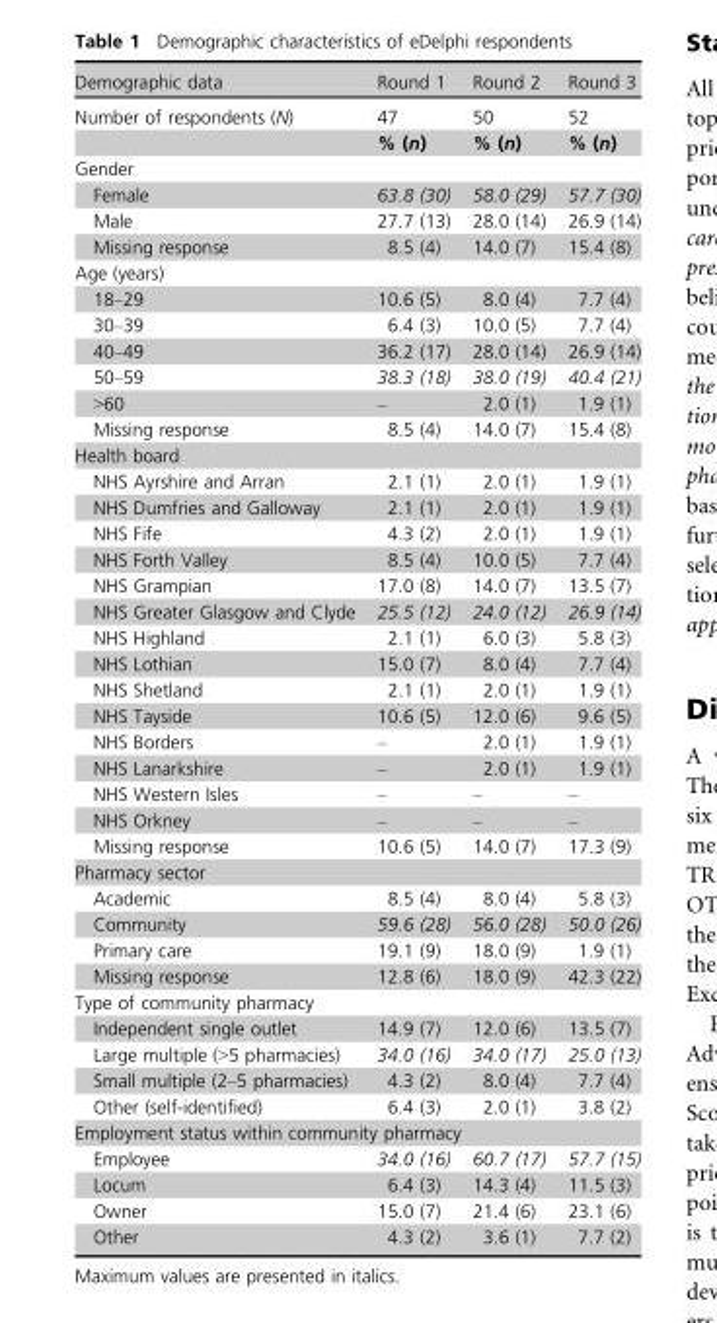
<table><thead><tr><td>Demographic data</td><td>Round 1</td><td>Round 2</td><td>Round 3</td></tr></thead><tbody><tr><td rowspan="2">Number of respondents (N)</td><td>47</td><td>50</td><td>52</td></tr><tr><td>% (n)</td><td>% (n)</td><td>% (n)</td></tr><tr><td colspan="4">Gender</td></tr><tr><td>Female</td><td>63.8 (30)</td><td>58.0 (29)</td><td>57.7 (30)</td></tr><tr><td>Male</td><td>27.7 (13)</td><td>28.0 (14)</td><td>26.9 (14)</td></tr><tr><td>Missing response</td><td>8.5 (4)</td><td>14.0 (7)</td><td>15.4 (8)</td></tr><tr><td colspan="4">Age (years)</td></tr><tr><td>18–29</td><td>10.6 (5)</td><td>8.0 (4)</td><td>7.7 (4)</td></tr><tr><td>30–39</td><td>6.4 (3)</td><td>10.0 (5)</td><td>7.7 (4)</td></tr><tr><td>40–49</td><td>36.2 (17)</td><td>28.0 (14)</td><td>26.9 (14)</td></tr><tr><td>50–59</td><td>38.3 (18)</td><td>38.0 (19)</td><td>40.4 (21)</td></tr><tr><td>&gt;60</td><td>–</td><td>2.0 (1)</td><td>1.9 (1)</td></tr><tr><td>Missing response</td><td>8.5 (4)</td><td>14.0 (7)</td><td>15.4 (8)</td></tr><tr><td colspan="4">Health board</td></tr><tr><td>NHS Ayrshire and Arran</td><td>2.1 (1)</td><td>2.0 (1)</td><td>1.9 (1)</td></tr><tr><td>NHS Dumfries and Galloway</td><td>2.1 (1)</td><td>2.0 (1)</td><td>1.9 (1)</td></tr><tr><td>NHS Fife</td><td>4.3 (2)</td><td>2.0 (1)</td><td>1.9 (1)</td></tr><tr><td>NHS Forth Valley</td><td>8.5 (4)</td><td>10.0 (5)</td><td>7.7 (4)</td></tr><tr><td>NHS Grampian</td><td>17.0 (8)</td><td>14.0 (7)</td><td>13.5 (7)</td></tr><tr><td>NHS Greater Glasgow and Clyde</td><td>25.5 (12)</td><td>24.0 (12)</td><td>26.9 (14)</td></tr><tr><td>NHS Highland</td><td>2.1 (1)</td><td>6.0 (3)</td><td>5.8 (3)</td></tr><tr><td>NHS Lothian</td><td>15.0 (7)</td><td>8.0 (4)</td><td>7.7 (4)</td></tr><tr><td>NHS Shetland</td><td>2.1 (1)</td><td>2.0 (1)</td><td>1.9 (1)</td></tr><tr><td>NHS Tayside</td><td>10.6 (5)</td><td>12.0 (6)</td><td>9.6 (5)</td></tr><tr><td>NHS Borders</td><td>–</td><td>2.0 (1)</td><td>1.9 (1)</td></tr><tr><td>NHS Lanarkshire</td><td>–</td><td>2.0 (1)</td><td>1.9 (1)</td></tr><tr><td>NHS Western Isles</td><td>–</td><td>–</td><td>–</td></tr><tr><td>NHS Orkney</td><td>–</td><td>–</td><td>–</td></tr><tr><td>Missing response</td><td>10.6 (5)</td><td>14.0 (7)</td><td>17.3 (9)</td></tr><tr><td colspan="4">Pharmacy sector</td></tr><tr><td>Academic</td><td>8.5 (4)</td><td>8.0 (4)</td><td>5.8 (3)</td></tr><tr><td>Community</td><td>59.6 (28)</td><td>56.0 (28)</td><td>50.0 (26)</td></tr><tr><td>Primary care</td><td>19.1 (9)</td><td>18.0 (9)</td><td>1.9 (1)</td></tr><tr><td>Missing response</td><td>12.8 (6)</td><td>18.0 (9)</td><td>42.3 (22)</td></tr><tr><td colspan="4">Type of community pharmacy</td></tr><tr><td>Independent single outlet</td><td>14.9 (7)</td><td>12.0 (6)</td><td>13.5 (7)</td></tr><tr><td>Large multiple (&gt;5 pharmacies)</td><td>34.0 (16)</td><td>34.0 (17)</td><td>25.0 (13)</td></tr><tr><td>Small multiple (2–5 pharmacies)</td><td>4.3 (2)</td><td>8.0 (4)</td><td>7.7 (4)</td></tr><tr><td>Other (self-identified)</td><td>6.4 (3)</td><td>2.0 (1)</td><td>3.8 (2)</td></tr><tr><td colspan="4">Employment status within community pharmacy</td></tr><tr><td>Employee</td><td>34.0 (16)</td><td>60.7 (17)</td><td>57.7 (15)</td></tr><tr><td>Locum</td><td>6.4 (3)</td><td>14.3 (4)</td><td>11.5 (3)</td></tr><tr><td>Owner</td><td>15.0 (7)</td><td>21.4 (6)</td><td>23.1 (6)</td></tr><tr><td>Other</td><td>4.3 (2)</td><td>3.6 (1)</td><td>7.7 (2)</td></tr></tbody></table>